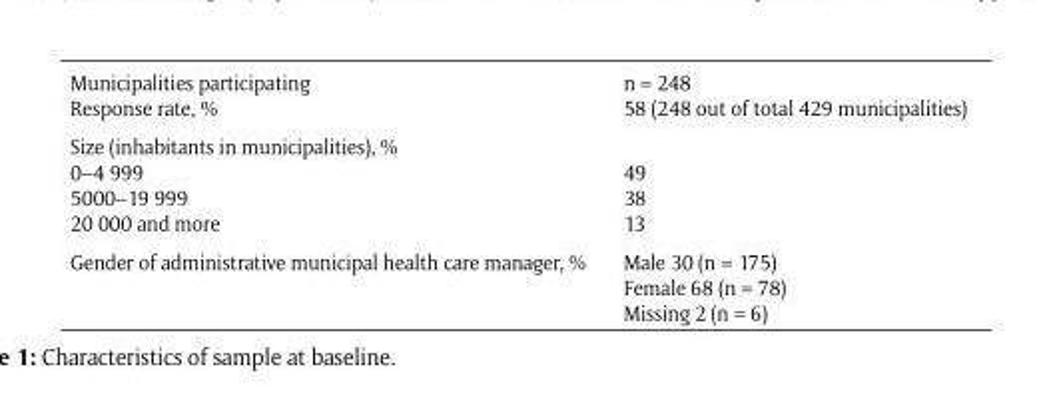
<table><tbody><tr><td>Municipalities participating Response rate, %</td><td>n = 248 58 (248 out of total 429 municipalities)</td></tr><tr><td>Size (inhabitants in municipalities), % 0–4 999 5000–19 999 20 000 and more</td><td>49 38 13</td></tr><tr><td>Gender of administrative municipal health care manager, %</td><td>Male 30 (n = 175) Female 68 (n = 78) Missing 2 (n = 6)</td></tr></tbody></table>